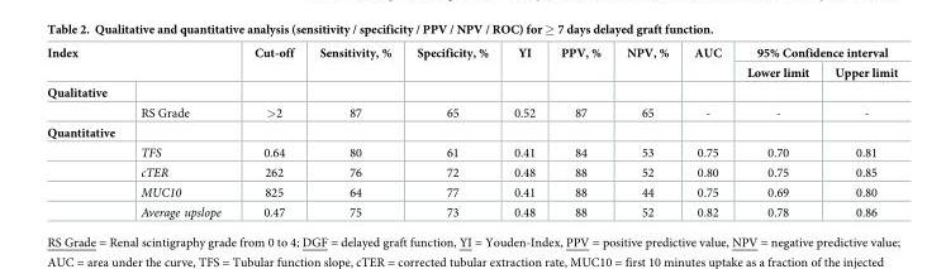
<table><thead><tr><td rowspan="2" colspan="2">Index</td><td rowspan="3">Cut-off</td><td rowspan="3">Sensitivity, %</td><td rowspan="3">Specificity, %</td><td rowspan="3">YI</td><td rowspan="3">PPV, %</td><td rowspan="3">NPV, %</td><td rowspan="3">AUC</td><td colspan="2">95% Confidence interval</td></tr><tr><td rowspan="2">Lower limit</td><td rowspan="2">Upper limit</td></tr><tr><td>Qualitative</td><td></td></tr></thead><tbody><tr><td></td><td>RS Grade</td><td>&gt;2</td><td>87</td><td>65</td><td>0.52</td><td>87</td><td>65</td><td>-</td><td>-</td><td>-</td></tr><tr><td colspan="11">Quantitative</td></tr><tr><td></td><td>TFS</td><td>0.64</td><td>80</td><td>61</td><td>0.41</td><td>84</td><td>53</td><td>0.75</td><td>0.70</td><td>0.81</td></tr><tr><td></td><td>cTER</td><td>262</td><td>76</td><td>72</td><td>0.48</td><td>88</td><td>52</td><td>0.80</td><td>0.75</td><td>0.85</td></tr><tr><td></td><td>MUC10</td><td>825</td><td>64</td><td>77</td><td>0.41</td><td>88</td><td>44</td><td>0.75</td><td>0.69</td><td>0.80</td></tr><tr><td></td><td>Average upslope</td><td>0.47</td><td>75</td><td>73</td><td>0.48</td><td>88</td><td>52</td><td>0.82</td><td>0.78</td><td>0.86</td></tr></tbody></table>